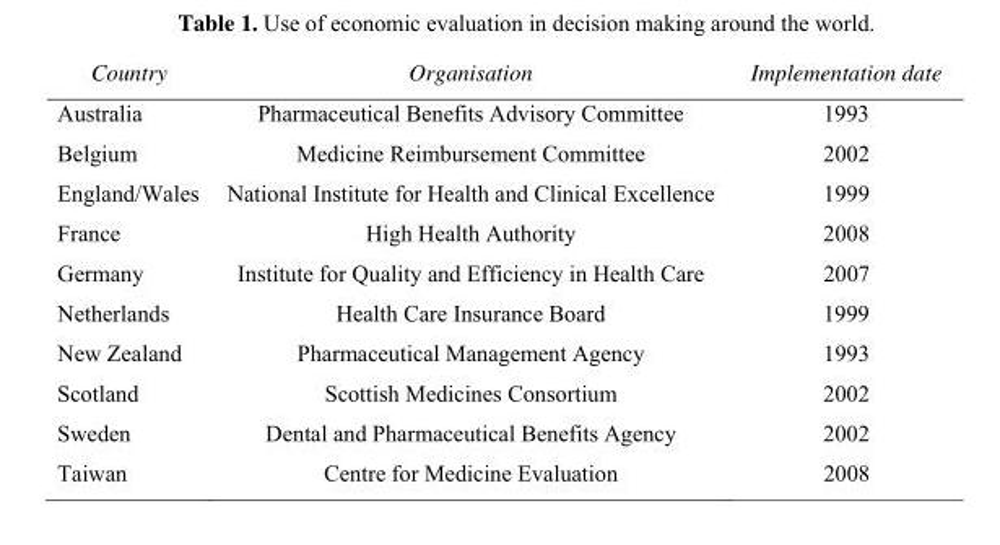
<table><thead><tr><td>Country</td><td>Organisation</td><td>Implementation date</td></tr></thead><tbody><tr><td>Australia</td><td>Pharmaceutical Benefits Advisory Committee</td><td>1993</td></tr><tr><td>Belgium</td><td>Medicine Reimbursement Committee</td><td>2002</td></tr><tr><td>England/Wales</td><td>National Institute for Health and Clinical Excellence</td><td>1999</td></tr><tr><td>France</td><td>High Health Authority</td><td>2008</td></tr><tr><td>Germany</td><td>Institute for Quality and Efficiency in Health Care</td><td>2007</td></tr><tr><td>Netherlands</td><td>Health Care Insurance Board</td><td>1999</td></tr><tr><td>New Zealand</td><td>Pharmaceutical Management Agency</td><td>1993</td></tr><tr><td>Scotland</td><td>Scottish Medicines Consortium</td><td>2002</td></tr><tr><td>Sweden</td><td>Dental and Pharmaceutical Benefits Agency</td><td>2002</td></tr><tr><td>Taiwan</td><td>Centre for Medicine Evaluation</td><td>2008</td></tr></tbody></table>